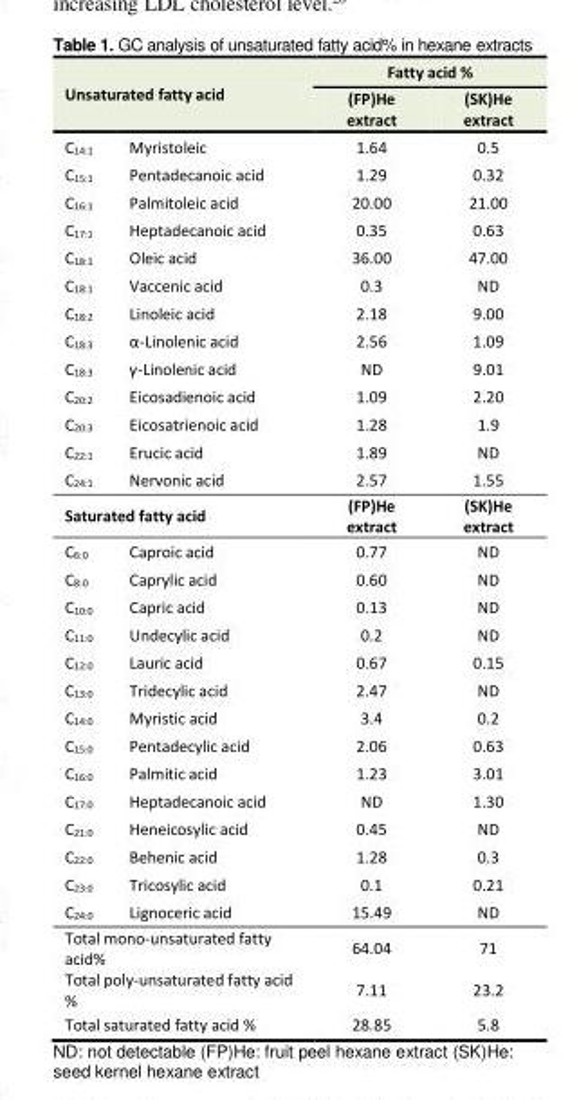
<table><tbody><tr><td rowspan="2" colspan="2">Unsaturated fatty acid</td><td colspan="2">Fatty acid %</td></tr><tr><td>(FP)He extract</td><td>(SK)He extract</td></tr><tr><td>C<sub>14:1</sub></td><td>Myristoleic</td><td>1.64</td><td>0.5</td></tr><tr><td>C<sub>15:1</sub></td><td>Pentadecanoic acid</td><td>1.29</td><td>0.32</td></tr><tr><td>C<sub>16:1</sub></td><td>Palmitoleic acid</td><td>20.00</td><td>21.00</td></tr><tr><td>C<sub>17:1</sub></td><td>Heptadecanoic acid</td><td>0.35</td><td>0.63</td></tr><tr><td>C<sub>18:1</sub></td><td>Oleic acid</td><td>36.00</td><td>47.00</td></tr><tr><td>C<sub>18:1</sub></td><td>Vaccenic acid</td><td>0.3</td><td>ND</td></tr><tr><td>C<sub>18:2</sub></td><td>Linoleic acid</td><td>2.18</td><td>9.00</td></tr><tr><td>C<sub>18:3</sub></td><td>α-Linolenic acid</td><td>2.56</td><td>1.09</td></tr><tr><td>C<sub>18:3</sub></td><td>γ-Linolenic acid</td><td>ND</td><td>9.01</td></tr><tr><td>C<sub>20:2</sub></td><td>Eicosadienoic acid</td><td>1.09</td><td>2.20</td></tr><tr><td>C<sub>20:3</sub></td><td>Eicosatrienoic acid</td><td>1.28</td><td>1.9</td></tr><tr><td>C<sub>22:1</sub></td><td>Erucic acid</td><td>1.89</td><td>ND</td></tr><tr><td>C<sub>24:1</sub></td><td>Nervonic acid</td><td>2.57</td><td>1.55</td></tr><tr><td colspan="2">Saturated fatty acid</td><td>(FP)He extract</td><td>(SK)He extract</td></tr><tr><td>C<sub>6:0</sub></td><td>Caproic acid</td><td>0.77</td><td>ND</td></tr><tr><td>C<sub>8:0</sub></td><td>Caprylic acid</td><td>0.60</td><td>ND</td></tr><tr><td>C<sub>10:0</sub></td><td>Capric acid</td><td>0.13</td><td>ND</td></tr><tr><td>C<sub>11:0</sub></td><td>Undecylic acid</td><td>0.2</td><td>ND</td></tr><tr><td>C<sub>12:0</sub></td><td>Lauric acid</td><td>0.67</td><td>0.15</td></tr><tr><td>C<sub>13:0</sub></td><td>Tridecylic acid</td><td>2.47</td><td>ND</td></tr><tr><td>C<sub>14:0</sub></td><td>Myristic acid</td><td>3.4</td><td>0.2</td></tr><tr><td>C<sub>15:0</sub></td><td>Pentadecylic acid</td><td>2.06</td><td>0.63</td></tr><tr><td>C<sub>16:0</sub></td><td>Palmitic acid</td><td>1.23</td><td>3.01</td></tr><tr><td>C<sub>17:0</sub></td><td>Heptadecanoic acid</td><td>ND</td><td>1.30</td></tr><tr><td>C<sub>21:0</sub></td><td>Heneicosylic acid</td><td>0.45</td><td>ND</td></tr><tr><td>C<sub>22:0</sub></td><td>Behenic acid</td><td>1.28</td><td>0.3</td></tr><tr><td>C<sub>23:0</sub></td><td>Tricosylic acid</td><td>0.1</td><td>0.21</td></tr><tr><td>C<sub>24:0</sub></td><td>Lignoceric acid</td><td>15.49</td><td>ND</td></tr><tr><td colspan="2">Total mono-unsaturated fatty acid%</td><td>64.04</td><td>71</td></tr><tr><td colspan="2">Total poly-unsaturated fatty acid %</td><td>7.11</td><td>23.2</td></tr><tr><td colspan="2">Total saturated fatty acid %</td><td>28.85</td><td>5.8</td></tr></tbody></table>